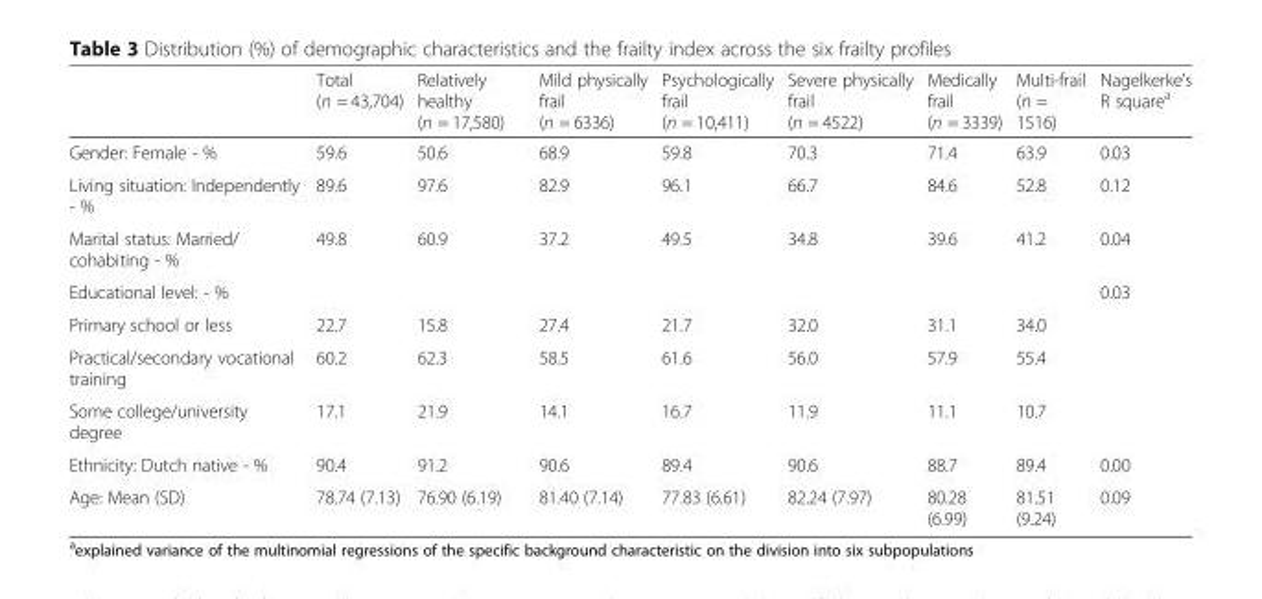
<table><thead><tr><td></td><td>Total (n = 43,704)</td><td>Relatively healthy (n = 17,580)</td><td>Mild physically frail (n = 6336)</td><td>Psychologically frail (n = 10,411)</td><td>Severe physically frail (n = 4522)</td><td>Medically frail (n = 3339)</td><td>Multi-frail (n = 1516)</td><td>Nagelkerke’s R square<sup>a</sup></td></tr></thead><tbody><tr><td>Gender: Female - %</td><td>59.6</td><td>50.6</td><td>68.9</td><td>59.8</td><td>70.3</td><td>71.4</td><td>63.9</td><td>0.03</td></tr><tr><td>Living situation: Independently - %</td><td>89.6</td><td>97.6</td><td>82.9</td><td>96.1</td><td>66.7</td><td>84.6</td><td>52.8</td><td>0.12</td></tr><tr><td>Marital status: Married/ cohabiting - %</td><td>49.8</td><td>60.9</td><td>37.2</td><td>49.5</td><td>34.8</td><td>39.6</td><td>41.2</td><td>0.04</td></tr><tr><td colspan="8">Educational level: - %</td><td rowspan="4">0.03</td></tr><tr><td>Primary school or less</td><td>22.7</td><td>15.8</td><td>27.4</td><td>21.7</td><td>32.0</td><td>31.1</td><td>34.0</td></tr><tr><td>Practical/secondary vocational training</td><td>60.2</td><td>62.3</td><td>58.5</td><td>61.6</td><td>56.0</td><td>57.9</td><td>55.4</td></tr><tr><td>Some college/university degree</td><td>17.1</td><td>21.9</td><td>14.1</td><td>16.7</td><td>11.9</td><td>11.1</td><td>10.7</td></tr><tr><td>Ethnicity: Dutch native - %</td><td>90.4</td><td>91.2</td><td>90.6</td><td>89.4</td><td>90.6</td><td>88.7</td><td>89.4</td><td>0.00</td></tr><tr><td>Age: Mean (SD)</td><td>78.74 (7.13)</td><td>76.90 (6.19)</td><td>81.40 (7.14)</td><td>77.83 (6.61)</td><td>82.24 (7.97)</td><td>80.28 (6.99)</td><td>81.51 (9.24)</td><td>0.09</td></tr></tbody></table>